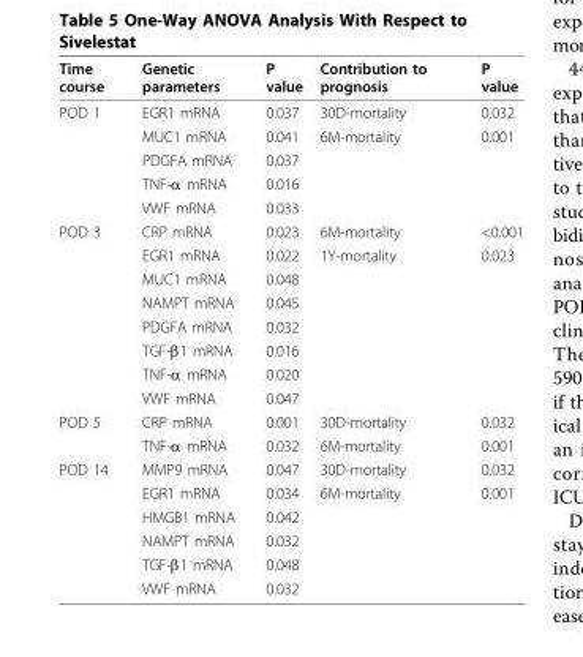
<table><thead><tr><td>Time course</td><td>Genetic parameters</td><td>P value</td><td>Contribution to prognosis</td><td>P value</td></tr></thead><tbody><tr><td rowspan="5">POD 1</td><td>EGR1 mRNA</td><td>0.037</td><td>30D-mortality</td><td>0.032</td></tr><tr><td>MUC1 mRNA</td><td>0.041</td><td>6M-mortality</td><td>0.001</td></tr><tr><td>PDGFA mRNA</td><td>0.037</td><td></td><td></td></tr><tr><td>TNF-α mRNA</td><td>0.016</td><td></td><td></td></tr><tr><td>VWF mRNA</td><td>0.033</td><td></td><td></td></tr><tr><td rowspan="8">POD 3</td><td>CRP mRNA</td><td>0.023</td><td>6M-mortality</td><td>&lt;0.001</td></tr><tr><td>EGR1 mRNA</td><td>0.022</td><td>1Y-mortality</td><td>0.023</td></tr><tr><td>MUC1 mRNA</td><td>0.048</td><td></td><td></td></tr><tr><td>NAMPT mRNA</td><td>0.045</td><td></td><td></td></tr><tr><td>PDGFA mRNA</td><td>0.032</td><td></td><td></td></tr><tr><td>TGF-β1 mRNA</td><td>0.016</td><td></td><td></td></tr><tr><td>TNF-α mRNA</td><td>0.020</td><td></td><td></td></tr><tr><td>VWF mRNA</td><td>0.047</td><td></td><td></td></tr><tr><td rowspan="2">POD 5</td><td>CRP mRNA</td><td>0.001</td><td>30D-mortality</td><td>0.032</td></tr><tr><td>TNF-α mRNA</td><td>0.032</td><td>6M-mortality</td><td>0.001</td></tr><tr><td rowspan="6">POD 14</td><td>MMP9 mRNA</td><td>0.047</td><td>30D-mortality</td><td>0.032</td></tr><tr><td>EGR1 mRNA</td><td>0.034</td><td>6M-mortality</td><td>0.001</td></tr><tr><td>HMGB1 mRNA</td><td>0.042</td><td></td><td></td></tr><tr><td>NAMPT mRNA</td><td>0.032</td><td></td><td></td></tr><tr><td>TGF-β1 mRNA</td><td>0.048</td><td></td><td></td></tr><tr><td>VWF mRNA</td><td>0.032</td><td></td><td></td></tr></tbody></table>